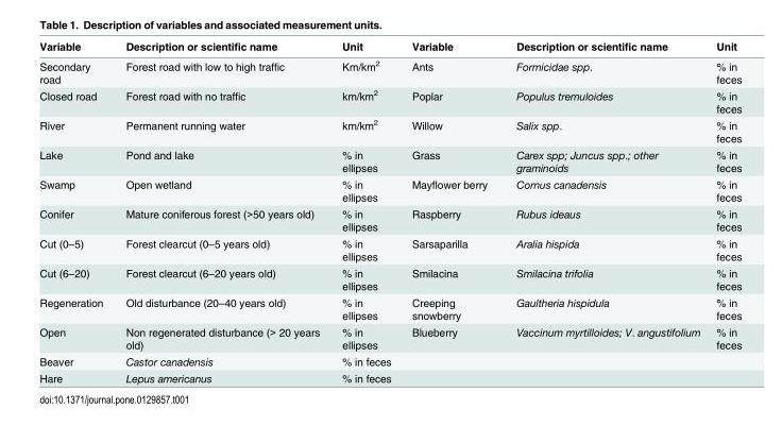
<table><thead><tr><td>Variable</td><td>Description or scientific name</td><td>Unit</td><td>Variable</td><td>Description or scientific name</td><td>Unit</td></tr></thead><tbody><tr><td>Secondary road</td><td>Forest road with low to high traffic</td><td>Km/km<sup>2</sup></td><td>Ants</td><td>Formicidae spp.</td><td>% in feces</td></tr><tr><td>Closed road</td><td>Forest road with no traffic</td><td>km/km<sup>2</sup></td><td>Poplar</td><td>Populus tremuloides</td><td>% in feces</td></tr><tr><td>River</td><td>Permanent running water</td><td>km/km<sup>2</sup></td><td>Willow</td><td>Salix spp.</td><td>% in feces</td></tr><tr><td>Lake</td><td>Pond and lake</td><td>% in ellipses</td><td>Grass</td><td>Carex spp; Juncus spp.; other graminoids</td><td>% in feces</td></tr><tr><td>Swamp</td><td>Open wetland</td><td>% in ellipses</td><td>Mayflower berry</td><td>Cornus canadensis</td><td>% in feces</td></tr><tr><td>Conifer</td><td>Mature coniferous forest (&gt;50 years old)</td><td>% in ellipses</td><td>Raspberry</td><td>Rubus ideaus</td><td>% in feces</td></tr><tr><td>Cut (0–5)</td><td>Forest clearcut (0–5 years old)</td><td>% in ellipses</td><td>Sarsaparilla</td><td>Aralia hispida</td><td>% in feces</td></tr><tr><td>Cut (6–20)</td><td>Forest clearcut (6–20 years old)</td><td>% in ellipses</td><td>Smilacina</td><td>Smilacina trifolia</td><td>% in feces</td></tr><tr><td>Regeneration</td><td>Old disturbance (20–40 years old)</td><td>% in ellipses</td><td>Creeping snowberry</td><td>Gaultheria hispidula</td><td>% in feces</td></tr><tr><td>Open</td><td>Non regenerated disturbance (&gt; 20 years old)</td><td>% in ellipses</td><td>Blueberry</td><td>Vaccinum myrtilloides; V. angustifolium</td><td>% in feces</td></tr><tr><td>Beaver</td><td>Castor canadensis</td><td>% in feces</td><td></td><td></td><td></td></tr><tr><td>Hare</td><td>Lepus americanus</td><td>% in feces</td><td></td><td></td><td></td></tr></tbody></table>